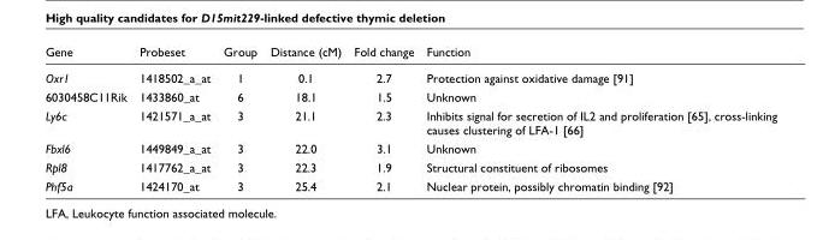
<table><thead><tr><td>Gene</td><td>Probeset</td><td>Group</td><td>Distance (cM)</td><td>Fold change</td><td>Function</td></tr></thead><tbody><tr><td>Oxr1</td><td>1418502_a_at</td><td>1</td><td>0.1</td><td>2.7</td><td>Protection against oxidative damage [91]</td></tr><tr><td>6030458C11Rik</td><td>1433860_at</td><td>6</td><td>18.1</td><td>1.5</td><td>Unknown</td></tr><tr><td>Ly6c</td><td>1421571_a_at</td><td>3</td><td>21.1</td><td>2.3</td><td>Inhibits signal for secretion of IL2 and proliferation [65], cross-linking causes clustering of LFA-1 [66]</td></tr><tr><td>Fbxl6</td><td>1449849_a_at</td><td>3</td><td>22.0</td><td>3.1</td><td>Unknown</td></tr><tr><td>Rpl8</td><td>1417762_a_at</td><td>3</td><td>22.3</td><td>1.9</td><td>Structural constituent of ribosomes</td></tr><tr><td>Phf5a</td><td>1424170_at</td><td>3</td><td>25.4</td><td>2.1</td><td>Nuclear protein, possibly chromatin binding [92]</td></tr></tbody></table>